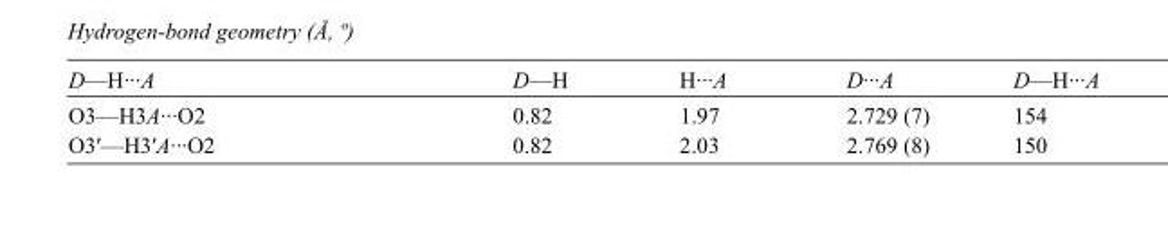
<table><tbody><tr><td>D—H···A</td><td>D—H</td><td>H···A</td><td>D···A</td><td>D—H···A</td></tr><tr><td>O3—H3A···O2</td><td>0.82</td><td>1.97</td><td>2.729 (7)</td><td>154</td></tr><tr><td>O3′—H3′A···O2</td><td>0.82</td><td>2.03</td><td>2.769 (8)</td><td>150</td></tr></tbody></table>